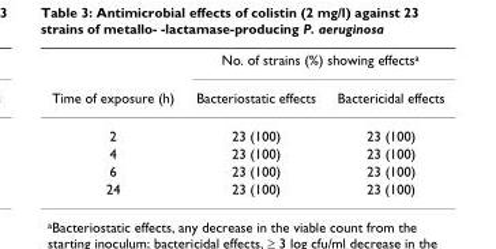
<table><thead><tr><td rowspan="2">Time of exposure (h)</td><td colspan="2">No. of strains (%) showing effects<sup>a</sup></td></tr><tr><td>Bacteriostatic effects</td><td>Bactericidal effects</td></tr></thead><tbody><tr><td>2</td><td>23 (100)</td><td>23 (100)</td></tr><tr><td>4</td><td>23 (100)</td><td>23 (100)</td></tr><tr><td>6</td><td>23 (100)</td><td>23 (100)</td></tr><tr><td>24</td><td>23 (100)</td><td>23 (100)</td></tr></tbody></table>